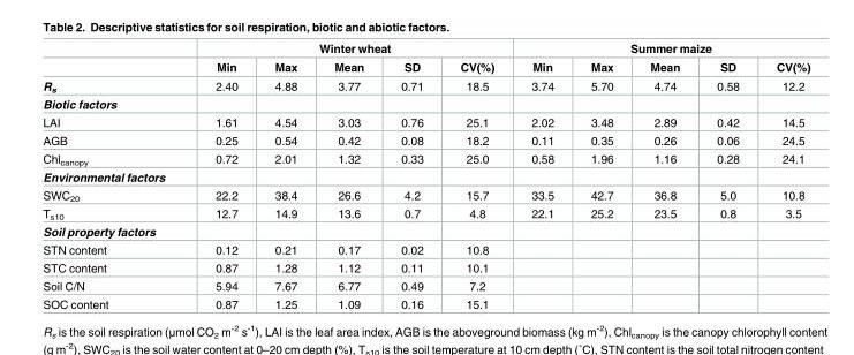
<table><thead><tr><td rowspan="2"></td><td colspan="5">Winter wheat</td><td colspan="5">Summer maize</td></tr><tr><td>Min</td><td>Max</td><td>Mean</td><td>SD</td><td>CV(%)</td><td>Min</td><td>Max</td><td>Mean</td><td>SD</td><td>CV(%)</td></tr></thead><tbody><tr><td>R<sub>s</sub></td><td>2.40</td><td>4.88</td><td>3.77</td><td>0.71</td><td>18.5</td><td>3.74</td><td>5.70</td><td>4.74</td><td>0.58</td><td>12.2</td></tr><tr><td colspan="11">Biotic factors</td></tr><tr><td>LAI</td><td>1.61</td><td>4.54</td><td>3.03</td><td>0.76</td><td>25.1</td><td>2.02</td><td>3.48</td><td>2.89</td><td>0.42</td><td>14.5</td></tr><tr><td>AGB</td><td>0.25</td><td>0.54</td><td>0.42</td><td>0.08</td><td>18.2</td><td>0.11</td><td>0.35</td><td>0.26</td><td>0.06</td><td>24.5</td></tr><tr><td>Chl<sub>canopy</sub></td><td>0.72</td><td>2.01</td><td>1.32</td><td>0.33</td><td>25.0</td><td>0.58</td><td>1.96</td><td>1.16</td><td>0.28</td><td>24.1</td></tr><tr><td colspan="11">Environmental factors</td></tr><tr><td>SWC<sub>20</sub></td><td>22.2</td><td>38.4</td><td>26.6</td><td>4.2</td><td>15.7</td><td>33.5</td><td>42.7</td><td>36.8</td><td>5.0</td><td>10.8</td></tr><tr><td>T<sub>s10</sub></td><td>12.7</td><td>14.9</td><td>13.6</td><td>0.7</td><td>4.8</td><td>22.1</td><td>25.2</td><td>23.5</td><td>0.8</td><td>3.5</td></tr><tr><td colspan="11">Soil property factors</td></tr><tr><td>STN content</td><td>0.12</td><td>0.21</td><td>0.17</td><td>0.02</td><td>10.8</td><td></td><td></td><td></td><td></td><td></td></tr><tr><td>STC content</td><td>0.87</td><td>1.28</td><td>1.12</td><td>0.11</td><td>10.1</td><td></td><td></td><td></td><td></td><td></td></tr><tr><td>Soil C/N</td><td>5.94</td><td>7.67</td><td>6.77</td><td>0.49</td><td>7.2</td><td></td><td></td><td></td><td></td><td></td></tr><tr><td>SOC content</td><td>0.87</td><td>1.25</td><td>1.09</td><td>0.16</td><td>15.1</td><td></td><td></td><td></td><td></td><td></td></tr></tbody></table>